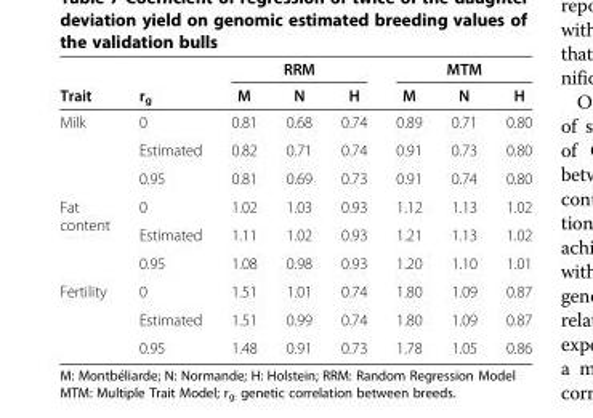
<table><thead><tr><td rowspan="2">Trait</td><td rowspan="2">r<sub>g</sub></td><td colspan="3">RRM</td><td colspan="3">MTM</td></tr><tr><td>M</td><td>N</td><td>H</td><td>M</td><td>N</td><td>H</td></tr></thead><tbody><tr><td rowspan="3">Milk</td><td>0</td><td>0.81</td><td>0.68</td><td>0.74</td><td>0.89</td><td>0.71</td><td>0.80</td></tr><tr><td>Estimated</td><td>0.82</td><td>0.71</td><td>0.74</td><td>0.91</td><td>0.73</td><td>0.80</td></tr><tr><td>0.95</td><td>0.81</td><td>0.69</td><td>0.73</td><td>0.91</td><td>0.74</td><td>0.80</td></tr><tr><td rowspan="3">Fat content</td><td>0</td><td>1.02</td><td>1.03</td><td>0.93</td><td>1.12</td><td>1.13</td><td>1.02</td></tr><tr><td>Estimated</td><td>1.11</td><td>1.02</td><td>0.93</td><td>1.21</td><td>1.13</td><td>1.02</td></tr><tr><td>0.95</td><td>1.08</td><td>0.98</td><td>0.93</td><td>1.20</td><td>1.10</td><td>1.01</td></tr><tr><td rowspan="3">Fertility</td><td>0</td><td>1.51</td><td>1.01</td><td>0.74</td><td>1.80</td><td>1.09</td><td>0.87</td></tr><tr><td>Estimated</td><td>1.51</td><td>0.99</td><td>0.74</td><td>1.80</td><td>1.09</td><td>0.87</td></tr><tr><td>0.95</td><td>1.48</td><td>0.91</td><td>0.73</td><td>1.78</td><td>1.05</td><td>0.86</td></tr></tbody></table>